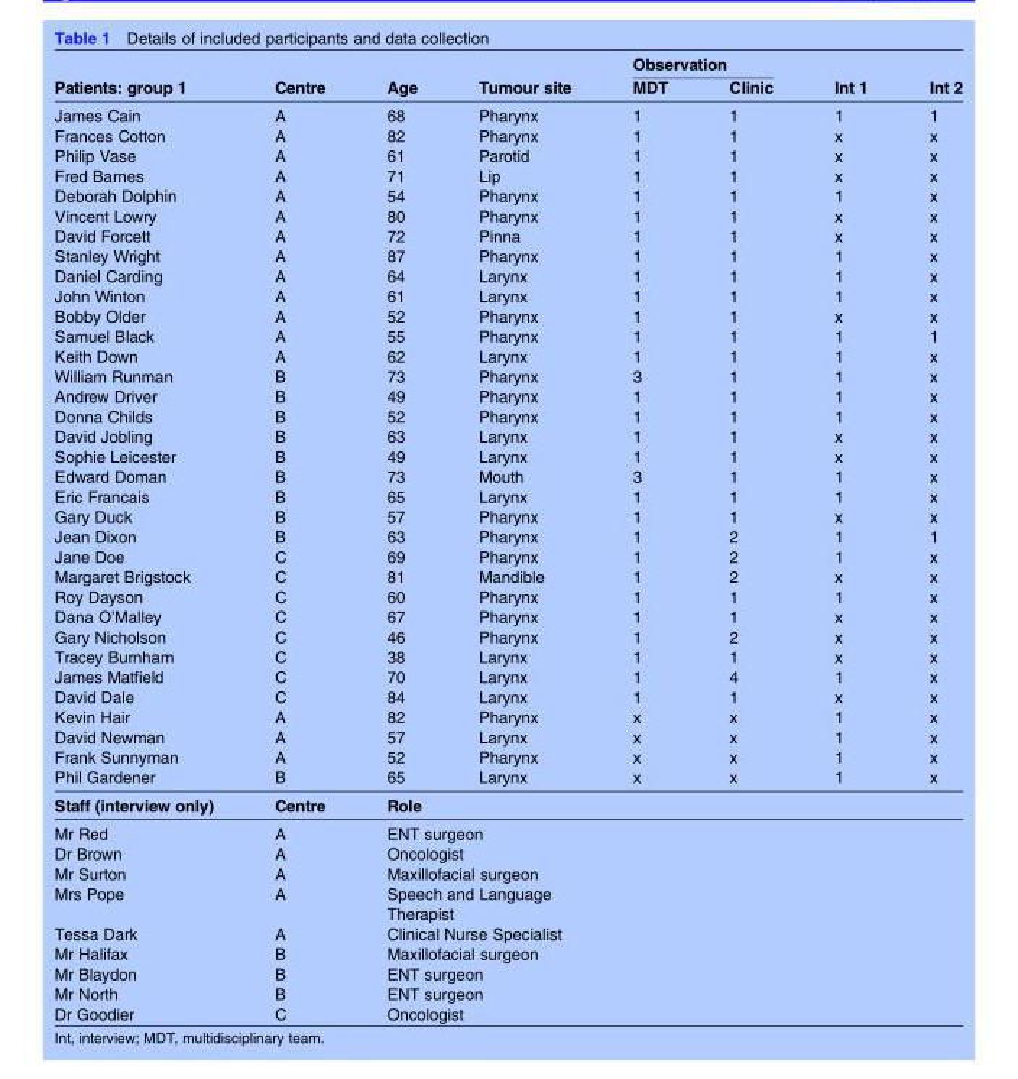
<table><thead><tr><td rowspan="2">Patients: group 1</td><td rowspan="2">Centre</td><td rowspan="2">Age</td><td rowspan="2">Tumour site</td><td colspan="2">Observation</td><td rowspan="2">Int 1</td><td rowspan="2">Int 2</td></tr><tr><td>MDT</td><td>Clinic</td></tr></thead><tbody><tr><td>James Cain</td><td>A</td><td>68</td><td>Pharynx</td><td>1</td><td>1</td><td>1</td><td>1</td></tr><tr><td>Frances Cotton</td><td>A</td><td>82</td><td>Pharynx</td><td>1</td><td>1</td><td>x</td><td>x</td></tr><tr><td>Philip Vase</td><td>A</td><td>61</td><td>Parotid</td><td>1</td><td>1</td><td>x</td><td>x</td></tr><tr><td>Fred Barnes</td><td>A</td><td>71</td><td>Lip</td><td>1</td><td>1</td><td>x</td><td>x</td></tr><tr><td>Deborah Dolphin</td><td>A</td><td>54</td><td>Pharynx</td><td>1</td><td>1</td><td>1</td><td>x</td></tr><tr><td>Vincent Lowry</td><td>A</td><td>80</td><td>Pharynx</td><td>1</td><td>1</td><td>x</td><td>x</td></tr><tr><td>David Forcett</td><td>A</td><td>72</td><td>Pinna</td><td>1</td><td>1</td><td>x</td><td>x</td></tr><tr><td>Stanley Wright</td><td>A</td><td>87</td><td>Pharynx</td><td>1</td><td>1</td><td>1</td><td>x</td></tr><tr><td>Daniel Carding</td><td>A</td><td>64</td><td>Larynx</td><td>1</td><td>1</td><td>1</td><td>x</td></tr><tr><td>John Winton</td><td>A</td><td>61</td><td>Larynx</td><td>1</td><td>1</td><td>1</td><td>x</td></tr><tr><td>Bobby Older</td><td>A</td><td>52</td><td>Pharynx</td><td>1</td><td>1</td><td>x</td><td>x</td></tr><tr><td>Samuel Black</td><td>A</td><td>55</td><td>Pharynx</td><td>1</td><td>1</td><td>1</td><td>1</td></tr><tr><td>Keith Down</td><td>A</td><td>62</td><td>Larynx</td><td>1</td><td>1</td><td>1</td><td>x</td></tr><tr><td>William Runman</td><td>B</td><td>73</td><td>Pharynx</td><td>3</td><td>1</td><td>1</td><td>x</td></tr><tr><td>Andrew Driver</td><td>B</td><td>49</td><td>Pharynx</td><td>1</td><td>1</td><td>1</td><td>x</td></tr><tr><td>Donna Childs</td><td>B</td><td>52</td><td>Pharynx</td><td>1</td><td>1</td><td>1</td><td>x</td></tr><tr><td>David Jobling</td><td>B</td><td>63</td><td>Larynx</td><td>1</td><td>1</td><td>x</td><td>x</td></tr><tr><td>Sophie Leicester</td><td>B</td><td>49</td><td>Larynx</td><td>1</td><td>1</td><td>x</td><td>x</td></tr><tr><td>Edward Doman</td><td>B</td><td>73</td><td>Mouth</td><td>3</td><td>1</td><td>1</td><td>x</td></tr><tr><td>Eric Francais</td><td>B</td><td>65</td><td>Larynx</td><td>1</td><td>1</td><td>1</td><td>x</td></tr><tr><td>Gary Duck</td><td>B</td><td>57</td><td>Pharynx</td><td>1</td><td>1</td><td>x</td><td>x</td></tr><tr><td>Jean Dixon</td><td>B</td><td>63</td><td>Pharynx</td><td>1</td><td>2</td><td>1</td><td>1</td></tr><tr><td>Jane Doe</td><td>C</td><td>69</td><td>Pharynx</td><td>1</td><td>2</td><td>1</td><td>x</td></tr><tr><td>Margaret Brigstock</td><td>C</td><td>81</td><td>Mandible</td><td>1</td><td>2</td><td>x</td><td>x</td></tr><tr><td>Roy Dayson</td><td>C</td><td>60</td><td>Pharynx</td><td>1</td><td>1</td><td>1</td><td>x</td></tr><tr><td>Dana O’Malley</td><td>C</td><td>67</td><td>Pharynx</td><td>1</td><td>1</td><td>x</td><td>x</td></tr><tr><td>Gary Nicholson</td><td>C</td><td>46</td><td>Pharynx</td><td>1</td><td>2</td><td>x</td><td>x</td></tr><tr><td>Tracey Burnham</td><td>C</td><td>38</td><td>Larynx</td><td>1</td><td>1</td><td>x</td><td>x</td></tr><tr><td>James Matfield</td><td>C</td><td>70</td><td>Larynx</td><td>1</td><td>4</td><td>1</td><td>x</td></tr><tr><td>David Dale</td><td>C</td><td>84</td><td>Larynx</td><td>1</td><td>1</td><td>x</td><td>x</td></tr><tr><td>Kevin Hair</td><td>A</td><td>82</td><td>Pharynx</td><td>x</td><td>x</td><td>1</td><td>x</td></tr><tr><td>David Newman</td><td>A</td><td>57</td><td>Larynx</td><td>x</td><td>x</td><td>1</td><td>x</td></tr><tr><td>Frank Sunnyman</td><td>A</td><td>52</td><td>Pharynx</td><td>x</td><td>x</td><td>1</td><td>x</td></tr><tr><td>Phil Gardener</td><td>B</td><td>65</td><td>Larynx</td><td>x</td><td>x</td><td>1</td><td>x</td></tr><tr><td>Staff (interview only)</td><td>Centre</td><td colspan="2">Role</td><td colspan="4"></td></tr><tr><td>Mr Red</td><td>A</td><td colspan="2">ENT surgeon</td><td colspan="4"></td></tr><tr><td>Dr Brown</td><td>A</td><td colspan="2">Oncologist</td><td colspan="4"></td></tr><tr><td>Mr Surton</td><td>A</td><td colspan="2">Maxillofacial surgeon</td><td colspan="4"></td></tr><tr><td>Mrs Pope</td><td>A</td><td colspan="2">Speech and Language Therapist</td><td colspan="4"></td></tr><tr><td>Tessa Dark</td><td>A</td><td colspan="2">Clinical Nurse Specialist</td><td colspan="4"></td></tr><tr><td>Mr Halifax</td><td>B</td><td colspan="2">Maxillofacial surgeon</td><td colspan="4"></td></tr><tr><td>Mr Blaydon</td><td>B</td><td colspan="2">ENT surgeon</td><td colspan="4"></td></tr><tr><td>Mr North</td><td>B</td><td colspan="2">ENT surgeon</td><td colspan="4"></td></tr><tr><td>Dr Goodier</td><td>C</td><td colspan="2">Oncologist</td><td colspan="4"></td></tr></tbody></table>